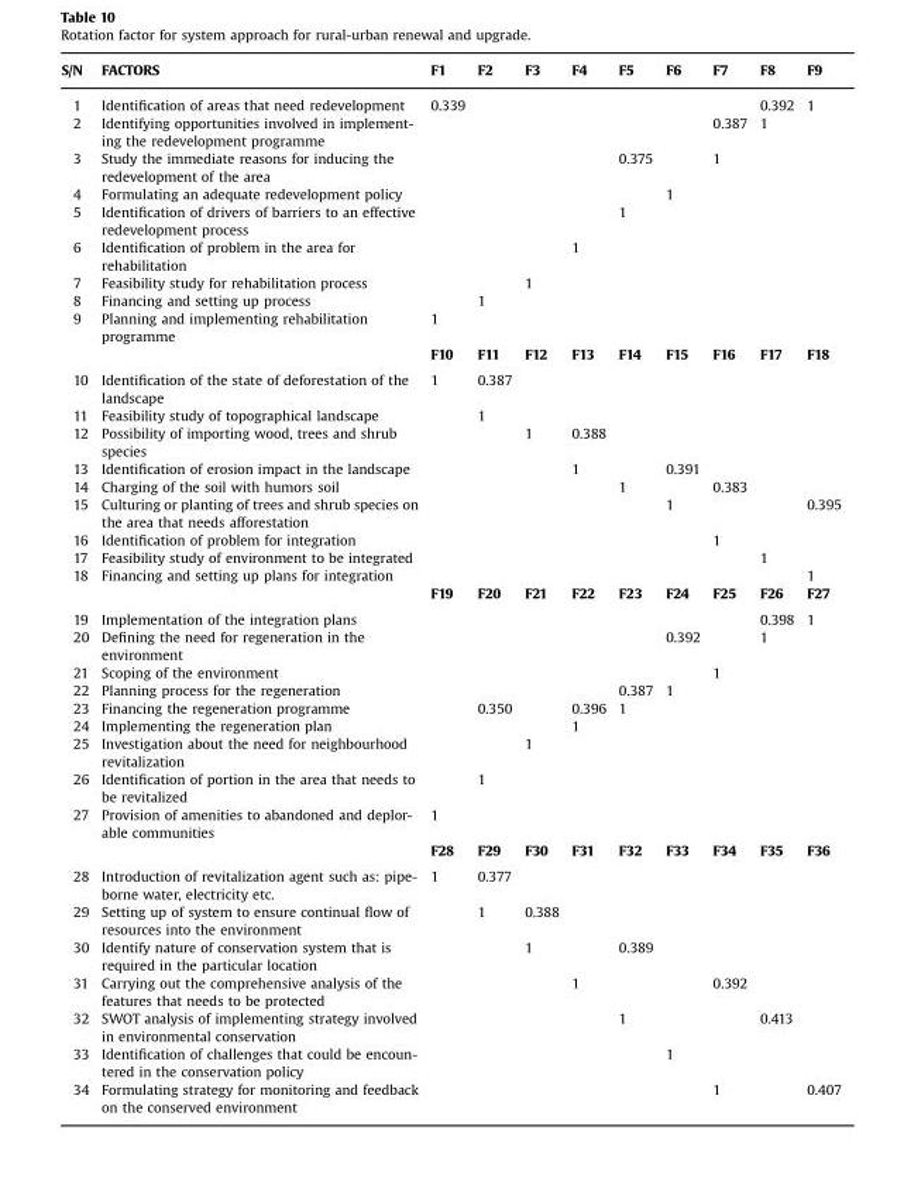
<table><thead><tr><td>S/N</td><td>FACTORS</td><td>F1</td><td>F2</td><td>F3</td><td>F4</td><td>F5</td><td>F6</td><td>F7</td><td>F8</td><td>F9</td></tr></thead><tbody><tr><td>1</td><td>Identification of areas that need redevelopment</td><td>0.339</td><td></td><td></td><td></td><td></td><td></td><td></td><td>0.392</td><td>1</td></tr><tr><td>2</td><td>Identifying opportunities involved in implement- ing the redevelopment programme</td><td></td><td></td><td></td><td></td><td></td><td></td><td>0.387</td><td>1</td><td></td></tr><tr><td>3</td><td>Study the immediate reasons for inducing the redevelopment of the area</td><td></td><td></td><td></td><td></td><td>0.375</td><td></td><td>1</td><td></td><td></td></tr><tr><td>4</td><td>Formulating an adequate redevelopment policy</td><td></td><td></td><td></td><td></td><td></td><td>1</td><td></td><td></td><td></td></tr><tr><td>5</td><td>Identification of drivers of barriers to an effective redevelopment process</td><td></td><td></td><td></td><td></td><td>1</td><td></td><td></td><td></td><td></td></tr><tr><td>6</td><td>Identification of problem in the area for rehabilitation</td><td></td><td></td><td></td><td>1</td><td></td><td></td><td></td><td></td><td></td></tr><tr><td>7</td><td>Feasibility study for rehabilitation process</td><td></td><td></td><td>1</td><td></td><td></td><td></td><td></td><td></td><td></td></tr><tr><td>8</td><td>Financing and setting up process</td><td></td><td>1</td><td></td><td></td><td></td><td></td><td></td><td></td><td></td></tr><tr><td rowspan="2">9</td><td>Planning and implementing rehabilitation programme</td><td>1</td><td></td><td></td><td></td><td></td><td></td><td></td><td></td><td></td></tr><tr><td></td><td>F10</td><td>F11</td><td>F12</td><td>F13</td><td>F14</td><td>F15</td><td>F16</td><td>F17</td><td>F18</td></tr><tr><td>10</td><td>Identification of the state of deforestation of the landscape</td><td>1</td><td>0.387</td><td></td><td></td><td></td><td></td><td></td><td></td><td></td></tr><tr><td>11</td><td>Feasibility study of topographical landscape</td><td></td><td>1</td><td></td><td></td><td></td><td></td><td></td><td></td><td></td></tr><tr><td>12</td><td>Possibility of importing wood, trees and shrub species</td><td></td><td></td><td>1</td><td>0.388</td><td></td><td></td><td></td><td></td><td></td></tr><tr><td>13</td><td>Identification of erosion impact in the landscape</td><td></td><td></td><td></td><td>1</td><td></td><td>0.391</td><td></td><td></td><td></td></tr><tr><td>14</td><td>Charging of the soil with humors soil</td><td></td><td></td><td></td><td></td><td>1</td><td></td><td>0.383</td><td></td><td></td></tr><tr><td>15</td><td>Culturing or planting of trees and shrub species on the area that needs afforestation</td><td></td><td></td><td></td><td></td><td></td><td>1</td><td></td><td></td><td>0.395</td></tr><tr><td>16</td><td>Identification of problem for integration</td><td></td><td></td><td></td><td></td><td></td><td></td><td>1</td><td></td><td></td></tr><tr><td>17</td><td>Feasibility study of environment to be integrated</td><td></td><td></td><td></td><td></td><td></td><td></td><td></td><td>1</td><td></td></tr><tr><td rowspan="2">18</td><td>Financing and setting up plans for integration</td><td></td><td></td><td></td><td></td><td></td><td></td><td></td><td></td><td>1</td></tr><tr><td></td><td>F19</td><td>F20</td><td>F21</td><td>F22</td><td>F23</td><td>F24</td><td>F25</td><td>F26</td><td>F27</td></tr><tr><td>19</td><td>Implementation of the integration plans</td><td></td><td></td><td></td><td></td><td></td><td></td><td></td><td>0.398</td><td>1</td></tr><tr><td>20</td><td>Defining the need for regeneration in the environment</td><td></td><td></td><td></td><td></td><td></td><td>0.392</td><td></td><td>1</td><td></td></tr><tr><td>21</td><td>Scoping of the environment</td><td></td><td></td><td></td><td></td><td></td><td></td><td>1</td><td></td><td></td></tr><tr><td>22</td><td>Planning process for the regeneration</td><td></td><td></td><td></td><td></td><td>0.387</td><td>1</td><td></td><td></td><td></td></tr><tr><td>23</td><td>Financing the regeneration programme</td><td></td><td>0.350</td><td></td><td>0.396</td><td>1</td><td></td><td></td><td></td><td></td></tr><tr><td>24</td><td>Implementing the regeneration plan</td><td></td><td></td><td></td><td>1</td><td></td><td></td><td></td><td></td><td></td></tr><tr><td>25</td><td>Investigation about the need for neighbourhood revitalization</td><td></td><td></td><td>1</td><td></td><td></td><td></td><td></td><td></td><td></td></tr><tr><td>26</td><td>Identification of portion in the area that needs to be revitalized</td><td></td><td>1</td><td></td><td></td><td></td><td></td><td></td><td></td><td></td></tr><tr><td rowspan="2">27</td><td>Provision of amenities to abandoned and deplor- able communities</td><td>1</td><td></td><td></td><td></td><td></td><td></td><td></td><td></td><td></td></tr><tr><td></td><td>F28</td><td>F29</td><td>F30</td><td>F31</td><td>F32</td><td>F33</td><td>F34</td><td>F35</td><td>F36</td></tr><tr><td>28</td><td>Introduction of revitalization agent such as: pipe- borne water, electricity etc.</td><td>1</td><td>0.377</td><td></td><td></td><td></td><td></td><td></td><td></td><td></td></tr><tr><td>29</td><td>Setting up of system to ensure continual flow of resources into the environment</td><td></td><td>1</td><td>0.388</td><td></td><td></td><td></td><td></td><td></td><td></td></tr><tr><td>30</td><td>Identify nature of conservation system that is required in the particular location</td><td></td><td></td><td>1</td><td></td><td>0.389</td><td></td><td></td><td></td><td></td></tr><tr><td>31</td><td>Carrying out the comprehensive analysis of the features that needs to be protected</td><td></td><td></td><td></td><td>1</td><td></td><td></td><td>0.392</td><td></td><td></td></tr><tr><td>32</td><td>SWOT analysis of implementing strategy involved in environmental conservation</td><td></td><td></td><td></td><td></td><td>1</td><td></td><td></td><td>0.413</td><td></td></tr><tr><td>33</td><td>Identification of challenges that could be encoun- tered in the conservation policy</td><td></td><td></td><td></td><td></td><td></td><td>1</td><td></td><td></td><td></td></tr><tr><td>34</td><td>Formulating strategy for monitoring and feedback on the conserved environment</td><td></td><td></td><td></td><td></td><td></td><td></td><td>1</td><td></td><td>0.407</td></tr></tbody></table>